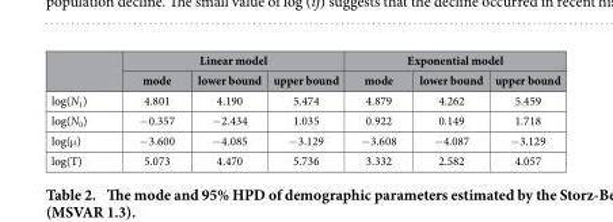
<table><thead><tr><td rowspan="2"></td><td colspan="3">Linear model</td><td colspan="3">Exponential model</td></tr><tr><td>mode</td><td>lower bound</td><td>upper bound</td><td>mode</td><td>lower bound</td><td>upper bound</td></tr></thead><tbody><tr><td>log(N<sub>1</sub>)</td><td>4.801</td><td>4.190</td><td>5.474</td><td>4.879</td><td>4.262</td><td>5.459</td></tr><tr><td>log(N<sub>0</sub>)</td><td>− 0.357</td><td>− 2.434</td><td>1.035</td><td>0.922</td><td>0.149</td><td>1.718</td></tr><tr><td>log(μ )</td><td>− 3.600</td><td>− 4.085</td><td>− 3.129</td><td>− 3.608</td><td>− 4.087</td><td>− 3.129</td></tr><tr><td>log(T)</td><td>5.073</td><td>4.470</td><td>5.736</td><td>3.332</td><td>2.582</td><td>4.057</td></tr></tbody></table>